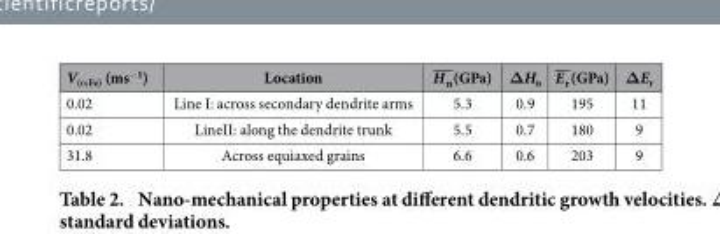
<table><thead><tr><td>V<sub>(αFe)</sub> (ms<sup>−1</sup>)</td><td>Location</td><td>Hn(GPa)</td><td>ΔH<sub>n</sub></td><td>Er(GPa)</td><td>ΔE<sub>r</sub></td></tr></thead><tbody><tr><td>0.02</td><td>Line I: across secondary dendrite arms</td><td>5.3</td><td>0.9</td><td>195</td><td>11</td></tr><tr><td>0.02</td><td>LineII: along the dendrite trunk</td><td>5.5</td><td>0.7</td><td>180</td><td>9</td></tr><tr><td>31.8</td><td>Across equiaxed grains</td><td>6.6</td><td>0.6</td><td>203</td><td>9</td></tr></tbody></table>